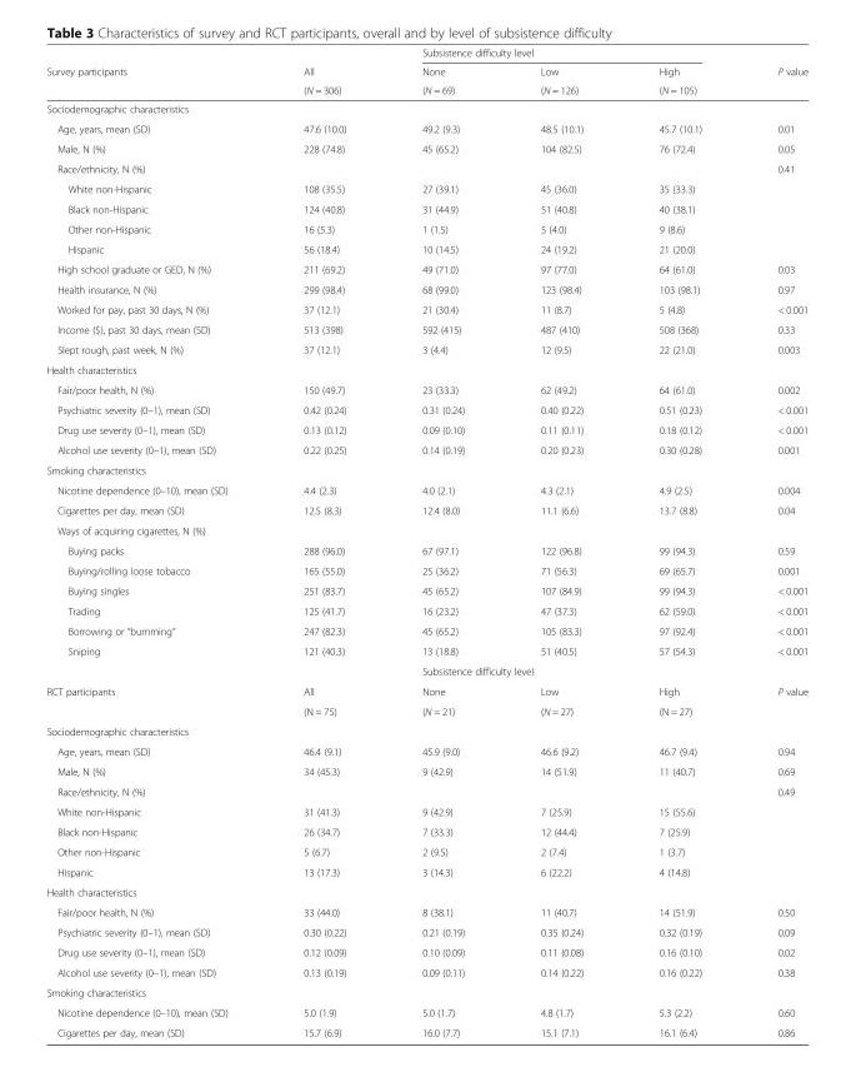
<table><thead><tr><td rowspan="3">Survey participants</td><td rowspan="3">All (N = 306)</td><td colspan="3">Subsistence difficulty level</td><td rowspan="3">P value</td></tr><tr><td rowspan="2">None (N = 69)</td><td rowspan="2">Low (N = 126)</td><td rowspan="2">High (N = 105)</td></tr><tr></tr></thead><tbody><tr><td colspan="6">Sociodemographic characteristics</td></tr><tr><td>Age, years, mean (SD)</td><td>47.6 (10.0)</td><td>49.2 (9.3)</td><td>48.5 (10.1)</td><td>45.7 (10.1)</td><td>0.01</td></tr><tr><td>Male, N (%)</td><td>228 (74.8)</td><td>45 (65.2)</td><td>104 (82.5)</td><td>76 (72.4)</td><td>0.05</td></tr><tr><td>Race/ethnicity, N (%)</td><td></td><td></td><td></td><td></td><td>0.41</td></tr><tr><td>White non-Hispanic</td><td>108 (35.5)</td><td>27 (39.1)</td><td>45 (36.0)</td><td>35 (33.3)</td><td></td></tr><tr><td>Black non-Hispanic</td><td>124 (40.8)</td><td>31 (44.9)</td><td>51 (40.8)</td><td>40 (38.1)</td><td></td></tr><tr><td>Other non-Hispanic</td><td>16 (5.3)</td><td>1 (1.5)</td><td>5 (4.0)</td><td>9 (8.6)</td><td></td></tr><tr><td>Hispanic</td><td>56 (18.4)</td><td>10 (14.5)</td><td>24 (19.2)</td><td>21 (20.0)</td><td></td></tr><tr><td>High school graduate or GED, N (%)</td><td>211 (69.2)</td><td>49 (71.0)</td><td>97 (77.0)</td><td>64 (61.0)</td><td>0.03</td></tr><tr><td>Health insurance, N (%)</td><td>299 (98.4)</td><td>68 (99.0)</td><td>123 (98.4)</td><td>103 (98.1)</td><td>0.97</td></tr><tr><td>Worked for pay, past 30 days, N (%)</td><td>37 (12.1)</td><td>21 (30.4)</td><td>11 (8.7)</td><td>5 (4.8)</td><td>&lt; 0.001</td></tr><tr><td>Income ($), past 30 days, mean (SD)</td><td>513 (398)</td><td>592 (415)</td><td>487 (410)</td><td>508 (368)</td><td>0.33</td></tr><tr><td>Slept rough, past week, N (%)</td><td>37 (12.1)</td><td>3 (4.4)</td><td>12 (9.5)</td><td>22 (21.0)</td><td>0.003</td></tr><tr><td colspan="6">Health characteristics</td></tr><tr><td>Fair/poor health, N (%)</td><td>150 (49.7)</td><td>23 (33.3)</td><td>62 (49.2)</td><td>64 (61.0)</td><td>0.002</td></tr><tr><td>Psychiatric severity (0–1), mean (SD)</td><td>0.42 (0.24)</td><td>0.31 (0.24)</td><td>0.40 (0.22)</td><td>0.51 (0.23)</td><td>&lt; 0.001</td></tr><tr><td>Drug use severity (0–1), mean (SD)</td><td>0.13 (0.12)</td><td>0.09 (0.10)</td><td>0.11 (0.11)</td><td>0.18 (0.12)</td><td>&lt; 0.001</td></tr><tr><td>Alcohol use severity (0–1), mean (SD)</td><td>0.22 (0.25)</td><td>0.14 (0.19)</td><td>0.20 (0.23)</td><td>0.30 (0.28)</td><td>0.001</td></tr><tr><td colspan="6">Smoking characteristics</td></tr><tr><td>Nicotine dependence (0–10), mean (SD)</td><td>4.4 (2.3)</td><td>4.0 (2.1)</td><td>4.3 (2.1)</td><td>4.9 (2.5)</td><td>0.004</td></tr><tr><td>Cigarettes per day, mean (SD)</td><td>12.5 (8.3)</td><td>12.4 (8.0)</td><td>11.1 (6.6)</td><td>13.7 (8.8)</td><td>0.04</td></tr><tr><td colspan="6">Ways of acquiring cigarettes, N (%)</td></tr><tr><td>Buying packs</td><td>288 (96.0)</td><td>67 (97.1)</td><td>122 (96.8)</td><td>99 (94.3)</td><td>0.59</td></tr><tr><td>Buying/rolling loose tobacco</td><td>165 (55.0)</td><td>25 (36.2)</td><td>71 (56.3)</td><td>69 (65.7)</td><td>0.001</td></tr><tr><td>Buying singles</td><td>251 (83.7)</td><td>45 (65.2)</td><td>107 (84.9)</td><td>99 (94.3)</td><td>&lt; 0.001</td></tr><tr><td>Trading</td><td>125 (41.7)</td><td>16 (23.2)</td><td>47 (37.3)</td><td>62 (59.0)</td><td>&lt; 0.001</td></tr><tr><td>Borrowing or “bumming”</td><td>247 (82.3)</td><td>45 (65.2)</td><td>105 (83.3)</td><td>97 (92.4)</td><td>&lt; 0.001</td></tr><tr><td rowspan="2">Sniping</td><td>121 (40.3)</td><td>13 (18.8)</td><td>51 (40.5)</td><td>57 (54.3)</td><td>&lt; 0.001</td></tr><tr><td></td><td colspan="3">Subsistence difficulty level</td><td></td></tr><tr><td rowspan="2">RCT participants</td><td>All</td><td>None</td><td>Low</td><td>High</td><td rowspan="2">P value</td></tr><tr><td>(N = 75)</td><td>(N = 21)</td><td>(N = 27)</td><td>(N = 27)</td></tr><tr><td colspan="6">Sociodemographic characteristics</td></tr><tr><td>Age, years, mean (SD)</td><td>46.4 (9.1)</td><td>45.9 (9.0)</td><td>46.6 (9.2)</td><td>46.7 (9.4)</td><td>0.94</td></tr><tr><td>Male, N (%)</td><td>34 (45.3)</td><td>9 (42.9)</td><td>14 (51.9)</td><td>11 (40.7)</td><td>0.69</td></tr><tr><td>Race/ethnicity, N (%)</td><td></td><td></td><td></td><td></td><td>0.49</td></tr><tr><td>White non-Hispanic</td><td>31 (41.3)</td><td>9 (42.9)</td><td>7 (25.9)</td><td>15 (55.6)</td><td></td></tr><tr><td>Black non-Hispanic</td><td>26 (34.7)</td><td>7 (33.3)</td><td>12 (44.4)</td><td>7 (25.9)</td><td></td></tr><tr><td>Other non-Hispanic</td><td>5 (6.7)</td><td>2 (9.5)</td><td>2 (7.4)</td><td>1 (3.7)</td><td></td></tr><tr><td>Hispanic</td><td>13 (17.3)</td><td>3 (14.3)</td><td>6 (22.2)</td><td>4 (14.8)</td><td></td></tr><tr><td colspan="6">Health characteristics</td></tr><tr><td>Fair/poor health, N (%)</td><td>33 (44.0)</td><td>8 (38.1)</td><td>11 (40.7)</td><td>14 (51.9)</td><td>0.50</td></tr><tr><td>Psychiatric severity (0–1), mean (SD)</td><td>0.30 (0.22)</td><td>0.21 (0.19)</td><td>0.35 (0.24)</td><td>0.32 (0.19)</td><td>0.09</td></tr><tr><td>Drug use severity (0–1), mean (SD)</td><td>0.12 (0.09)</td><td>0.10 (0.09)</td><td>0.11 (0.08)</td><td>0.16 (0.10)</td><td>0.02</td></tr><tr><td>Alcohol use severity (0–1), mean (SD)</td><td>0.13 (0.19)</td><td>0.09 (0.11)</td><td>0.14 (0.22)</td><td>0.16 (0.22)</td><td>0.38</td></tr><tr><td colspan="6">Smoking characteristics</td></tr><tr><td>Nicotine dependence (0–10), mean (SD)</td><td>5.0 (1.9)</td><td>5.0 (1.7)</td><td>4.8 (1.7)</td><td>5.3 (2.2)</td><td>0.60</td></tr><tr><td>Cigarettes per day, mean (SD)</td><td>15.7 (6.9)</td><td>16.0 (7.7)</td><td>15.1 (7.1)</td><td>16.1 (6.4)</td><td>0.86</td></tr></tbody></table>